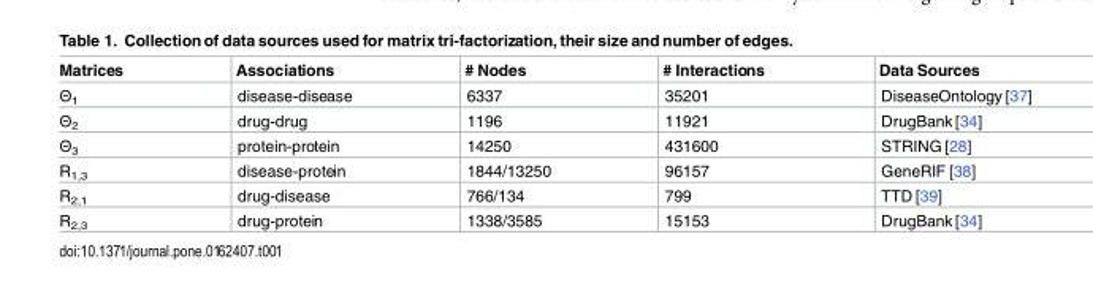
<table><thead><tr><td>Matrices</td><td>Associations</td><td># Nodes</td><td># Interactions</td><td>Data Sources</td></tr></thead><tbody><tr><td>Θ<sub>1</sub></td><td>disease-disease</td><td>6337</td><td>35201</td><td>DiseaseOntology [37]</td></tr><tr><td>Θ<sub>2</sub></td><td>drug-drug</td><td>1196</td><td>11921</td><td>DrugBank [34]</td></tr><tr><td>Θ<sub>3</sub></td><td>protein-protein</td><td>14250</td><td>431600</td><td>STRING [28]</td></tr><tr><td>R<sub>1,3</sub></td><td>disease-protein</td><td>1844/13250</td><td>96157</td><td>GeneRIF [38]</td></tr><tr><td>R<sub>2,1</sub></td><td>drug-disease</td><td>766/134</td><td>799</td><td>TTD [39]</td></tr><tr><td>R<sub>2,3</sub></td><td>drug-protein</td><td>1338/3585</td><td>15153</td><td>DrugBank [34]</td></tr></tbody></table>